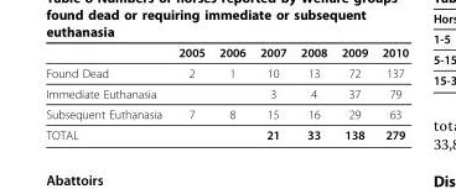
<table><thead><tr><td></td><td>2005</td><td>2006</td><td>2007</td><td>2008</td><td>2009</td><td>2010</td></tr></thead><tbody><tr><td>Found Dead</td><td>2</td><td>1</td><td>10</td><td>13</td><td>72</td><td>137</td></tr><tr><td>Immediate Euthanasia</td><td></td><td></td><td>3</td><td>4</td><td>37</td><td>79</td></tr><tr><td>Subsequent Euthanasia</td><td>7</td><td>8</td><td>15</td><td>16</td><td>29</td><td>63</td></tr><tr><td>TOTAL</td><td></td><td></td><td>21</td><td>33</td><td>138</td><td>279</td></tr></tbody></table>